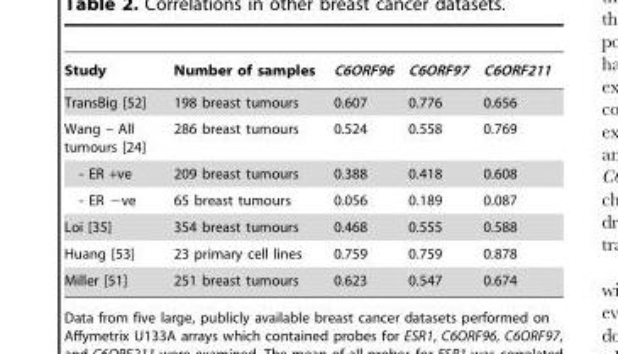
<table><thead><tr><td>Study</td><td>Number of samples</td><td>C6ORF96</td><td>C6ORF97</td><td>C6ORF211</td></tr></thead><tbody><tr><td>TransBig [52]</td><td>198 breast tumours</td><td>0.607</td><td>0.776</td><td>0.656</td></tr><tr><td>Wang – All tumours [24]</td><td>286 breast tumours</td><td>0.524</td><td>0.558</td><td>0.769</td></tr><tr><td>- ER +ve</td><td>209 breast tumours</td><td>0.388</td><td>0.418</td><td>0.608</td></tr><tr><td>- ER −ve</td><td>65 breast tumours</td><td>0.056</td><td>0.189</td><td>0.087</td></tr><tr><td>Loi [35]</td><td>354 breast tumours</td><td>0.468</td><td>0.555</td><td>0.588</td></tr><tr><td>Huang [53]</td><td>23 primary cell lines</td><td>0.759</td><td>0.759</td><td>0.878</td></tr><tr><td>Miller [51]</td><td>251 breast tumours</td><td>0.623</td><td>0.547</td><td>0.674</td></tr></tbody></table>